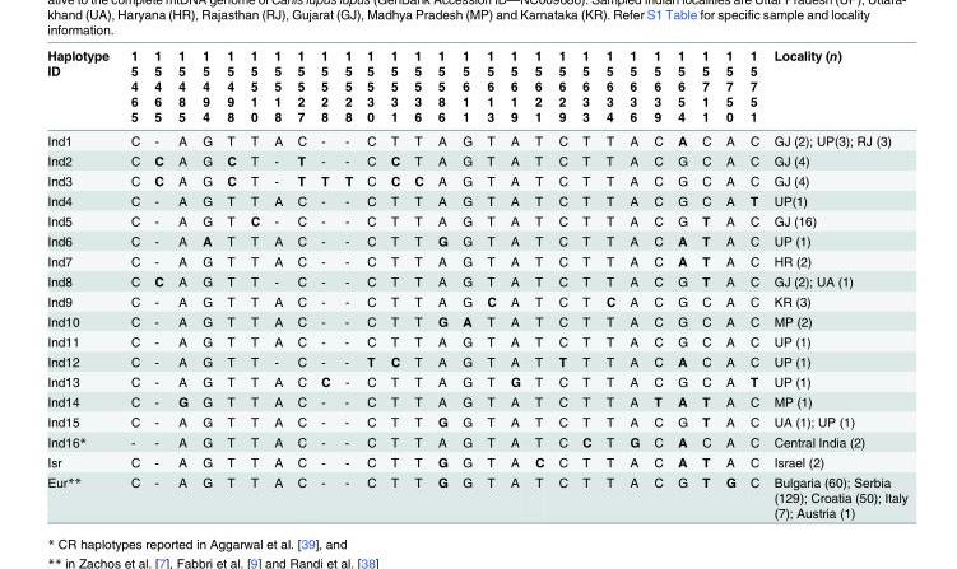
<table><thead><tr><td rowspan="5">Haplotype ID</td><td rowspan="5">1 5 4 6 5</td><td rowspan="5">1 5 4 6 5</td><td rowspan="5">1 5 4 8 5</td><td rowspan="5">1 5 4 9 4</td><td rowspan="5">1 5 4 9 8</td><td rowspan="5">1 5 5 1 0</td><td rowspan="5">1 5 5 1 8</td><td rowspan="5">1 5 5 2 7</td><td rowspan="5">1 5 5 2 8</td><td rowspan="5">1 5 5 2 8</td><td rowspan="5">1 5 5 3 0</td><td rowspan="5">1 5 5 3 1</td><td rowspan="5">1 5 5 3 6</td><td rowspan="5">1 5 5 8 6</td><td rowspan="5">1 5 6 1 1</td><td rowspan="5">1 5 6 1 3</td><td rowspan="5">1 5 6 1 9</td><td rowspan="5">1 5 6 2 1</td><td rowspan="5">1 5 6 2 9</td><td rowspan="5">1 5 6 3 3</td><td rowspan="5">1 5 6 3 4</td><td rowspan="5">1 5 6 3 6</td><td rowspan="5">1 5 6 3 9</td><td rowspan="5">1 5 6 5 4</td><td rowspan="5">1 5 7 1 1</td><td rowspan="5">1 5 7 5 0</td><td rowspan="5">1 5 7 5 1</td><td rowspan="5">Locality (n)</td></tr><tr></tr><tr></tr><tr></tr><tr></tr></thead><tbody><tr><td>Ind1</td><td>C</td><td>-</td><td>A</td><td>G</td><td>T</td><td>T</td><td>A</td><td>C</td><td>-</td><td>-</td><td>C</td><td>T</td><td>T</td><td>A</td><td>G</td><td>T</td><td>A</td><td>T</td><td>C</td><td>T</td><td>T</td><td>A</td><td>C</td><td>A</td><td>C</td><td>A</td><td>C</td><td>GJ (2); UP(3); RJ (3)</td></tr><tr><td>Ind2</td><td>C</td><td>C</td><td>A</td><td>G</td><td>C</td><td>T</td><td>-</td><td>T</td><td>-</td><td>-</td><td>C</td><td>C</td><td>T</td><td>A</td><td>G</td><td>T</td><td>A</td><td>T</td><td>C</td><td>T</td><td>T</td><td>A</td><td>C</td><td>G</td><td>C</td><td>A</td><td>C</td><td>GJ (4)</td></tr><tr><td>Ind3</td><td>C</td><td>C</td><td>A</td><td>G</td><td>C</td><td>T</td><td>-</td><td>T</td><td>T</td><td>T</td><td>C</td><td>C</td><td>C</td><td>A</td><td>G</td><td>T</td><td>A</td><td>T</td><td>C</td><td>T</td><td>T</td><td>A</td><td>C</td><td>G</td><td>C</td><td>A</td><td>C</td><td>GJ (4)</td></tr><tr><td>Ind4</td><td>C</td><td>-</td><td>A</td><td>G</td><td>T</td><td>T</td><td>A</td><td>C</td><td>-</td><td>-</td><td>C</td><td>T</td><td>T</td><td>A</td><td>G</td><td>T</td><td>A</td><td>T</td><td>C</td><td>T</td><td>T</td><td>A</td><td>C</td><td>G</td><td>C</td><td>A</td><td>T</td><td>UP(1)</td></tr><tr><td>Ind5</td><td>C</td><td>-</td><td>A</td><td>G</td><td>T</td><td>C</td><td>-</td><td>C</td><td>-</td><td>-</td><td>C</td><td>T</td><td>T</td><td>A</td><td>G</td><td>T</td><td>A</td><td>T</td><td>C</td><td>T</td><td>T</td><td>A</td><td>C</td><td>G</td><td>T</td><td>A</td><td>C</td><td>GJ (16)</td></tr><tr><td>Ind6</td><td>C</td><td>-</td><td>A</td><td>A</td><td>T</td><td>T</td><td>A</td><td>C</td><td>-</td><td>-</td><td>C</td><td>T</td><td>T</td><td>G</td><td>G</td><td>T</td><td>A</td><td>T</td><td>C</td><td>T</td><td>T</td><td>A</td><td>C</td><td>A</td><td>T</td><td>A</td><td>C</td><td>UP (1)</td></tr><tr><td>Ind7</td><td>C</td><td>-</td><td>A</td><td>G</td><td>T</td><td>T</td><td>A</td><td>C</td><td>-</td><td>-</td><td>C</td><td>T</td><td>T</td><td>A</td><td>G</td><td>T</td><td>A</td><td>T</td><td>C</td><td>T</td><td>T</td><td>A</td><td>C</td><td>A</td><td>T</td><td>A</td><td>C</td><td>HR (2)</td></tr><tr><td>Ind8</td><td>C</td><td>C</td><td>A</td><td>G</td><td>T</td><td>T</td><td>-</td><td>C</td><td>-</td><td>-</td><td>C</td><td>T</td><td>T</td><td>A</td><td>G</td><td>T</td><td>A</td><td>T</td><td>C</td><td>T</td><td>T</td><td>A</td><td>C</td><td>G</td><td>T</td><td>A</td><td>C</td><td>GJ (2); UA (1)</td></tr><tr><td>Ind9</td><td>C</td><td>-</td><td>A</td><td>G</td><td>T</td><td>T</td><td>A</td><td>C</td><td>-</td><td>-</td><td>C</td><td>T</td><td>T</td><td>A</td><td>G</td><td>C</td><td>A</td><td>T</td><td>C</td><td>T</td><td>C</td><td>A</td><td>C</td><td>G</td><td>C</td><td>A</td><td>C</td><td>KR (3)</td></tr><tr><td>Ind10</td><td>C</td><td>-</td><td>A</td><td>G</td><td>T</td><td>T</td><td>A</td><td>C</td><td>-</td><td>-</td><td>C</td><td>T</td><td>T</td><td>G</td><td>A</td><td>T</td><td>A</td><td>T</td><td>C</td><td>T</td><td>T</td><td>A</td><td>C</td><td>G</td><td>C</td><td>A</td><td>C</td><td>MP (2)</td></tr><tr><td>Ind11</td><td>C</td><td>-</td><td>A</td><td>G</td><td>T</td><td>T</td><td>A</td><td>C</td><td>-</td><td>-</td><td>C</td><td>T</td><td>T</td><td>A</td><td>G</td><td>T</td><td>A</td><td>T</td><td>C</td><td>T</td><td>T</td><td>A</td><td>C</td><td>G</td><td>C</td><td>A</td><td>C</td><td>UP (1)</td></tr><tr><td>Ind12</td><td>C</td><td>-</td><td>A</td><td>G</td><td>T</td><td>T</td><td>-</td><td>C</td><td>-</td><td>-</td><td>T</td><td>C</td><td>T</td><td>A</td><td>G</td><td>T</td><td>A</td><td>T</td><td>T</td><td>T</td><td>T</td><td>A</td><td>C</td><td>A</td><td>C</td><td>A</td><td>C</td><td>UP (1)</td></tr><tr><td>Ind13</td><td>C</td><td>-</td><td>A</td><td>G</td><td>T</td><td>T</td><td>A</td><td>C</td><td>C</td><td>-</td><td>C</td><td>T</td><td>T</td><td>A</td><td>G</td><td>T</td><td>G</td><td>T</td><td>C</td><td>T</td><td>T</td><td>A</td><td>C</td><td>G</td><td>C</td><td>A</td><td>T</td><td>UP (1)</td></tr><tr><td>Ind14</td><td>C</td><td>-</td><td>G</td><td>G</td><td>T</td><td>T</td><td>A</td><td>C</td><td>-</td><td>-</td><td>C</td><td>T</td><td>T</td><td>A</td><td>G</td><td>T</td><td>A</td><td>T</td><td>C</td><td>T</td><td>T</td><td>A</td><td>T</td><td>A</td><td>T</td><td>A</td><td>C</td><td>MP (1)</td></tr><tr><td>Ind15</td><td>C</td><td>-</td><td>A</td><td>G</td><td>T</td><td>T</td><td>A</td><td>C</td><td>-</td><td>-</td><td>C</td><td>T</td><td>T</td><td>G</td><td>G</td><td>T</td><td>A</td><td>T</td><td>C</td><td>T</td><td>T</td><td>A</td><td>C</td><td>G</td><td>T</td><td>A</td><td>C</td><td>UA (1); UP (1)</td></tr><tr><td>Ind16*</td><td>-</td><td>-</td><td>A</td><td>G</td><td>T</td><td>T</td><td>A</td><td>C</td><td>-</td><td>-</td><td>C</td><td>T</td><td>T</td><td>A</td><td>G</td><td>T</td><td>A</td><td>T</td><td>C</td><td>C</td><td>T</td><td>G</td><td>C</td><td>A</td><td>C</td><td>A</td><td>C</td><td>Central India (2)</td></tr><tr><td>Isr</td><td>C</td><td>-</td><td>A</td><td>G</td><td>T</td><td>T</td><td>A</td><td>C</td><td>-</td><td>-</td><td>C</td><td>T</td><td>T</td><td>G</td><td>G</td><td>T</td><td>A</td><td>C</td><td>C</td><td>T</td><td>T</td><td>A</td><td>C</td><td>A</td><td>T</td><td>A</td><td>C</td><td>Israel (2)</td></tr><tr><td>Eur**</td><td>C</td><td>-</td><td>A</td><td>G</td><td>T</td><td>T</td><td>A</td><td>C</td><td>-</td><td>-</td><td>C</td><td>T</td><td>T</td><td>G</td><td>G</td><td>T</td><td>A</td><td>T</td><td>C</td><td>T</td><td>T</td><td>A</td><td>C</td><td>G</td><td>T</td><td>G</td><td>C</td><td>Bulgaria (60); Serbia (129); Croatia (50); Italy (7); Austria (1)</td></tr></tbody></table>